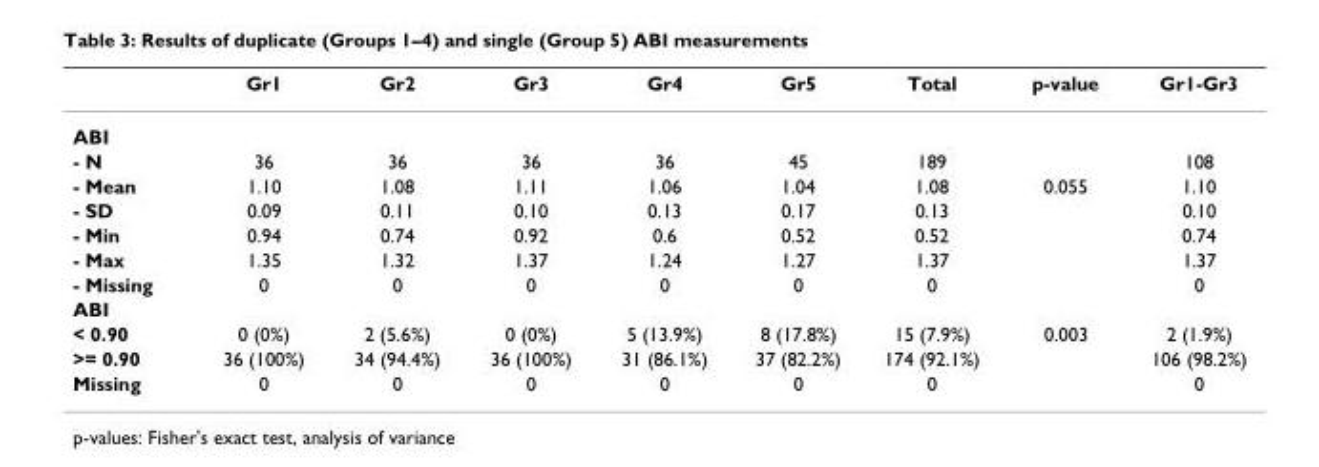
<table><thead><tr><td></td><td>Gr1</td><td>Gr2</td><td>Gr3</td><td>Gr4</td><td>Gr5</td><td>Total</td><td>p-value</td><td>Gr1-Gr3</td></tr></thead><tbody><tr><td colspan="9">ABI</td></tr><tr><td>- N</td><td>36</td><td>36</td><td>36</td><td>36</td><td>45</td><td>189</td><td></td><td>108</td></tr><tr><td>- Mean</td><td>1.10</td><td>1.08</td><td>1.11</td><td>1.06</td><td>1.04</td><td>1.08</td><td>0.055</td><td>1.10</td></tr><tr><td>- SD</td><td>0.09</td><td>0.11</td><td>0.10</td><td>0.13</td><td>0.17</td><td>0.13</td><td></td><td>0.10</td></tr><tr><td>- Min</td><td>0.94</td><td>0.74</td><td>0.92</td><td>0.6</td><td>0.52</td><td>0.52</td><td></td><td>0.74</td></tr><tr><td>- Max</td><td>1.35</td><td>1.32</td><td>1.37</td><td>1.24</td><td>1.27</td><td>1.37</td><td></td><td>1.37</td></tr><tr><td>- Missing</td><td>0</td><td>0</td><td>0</td><td>0</td><td>0</td><td>0</td><td></td><td>0</td></tr><tr><td colspan="9">ABI</td></tr><tr><td>&lt; 0.90</td><td>0 (0%)</td><td>2 (5.6%)</td><td>0 (0%)</td><td>5 (13.9%)</td><td>8 (17.8%)</td><td>15 (7.9%)</td><td>0.003</td><td>2 (1.9%)</td></tr><tr><td>&gt;= 0.90</td><td>36 (100%)</td><td>34 (94.4%)</td><td>36 (100%)</td><td>31 (86.1%)</td><td>37 (82.2%)</td><td>174 (92.1%)</td><td></td><td>106 (98.2%)</td></tr><tr><td>Missing</td><td>0</td><td>0</td><td>0</td><td>0</td><td>0</td><td>0</td><td></td><td>0</td></tr></tbody></table>